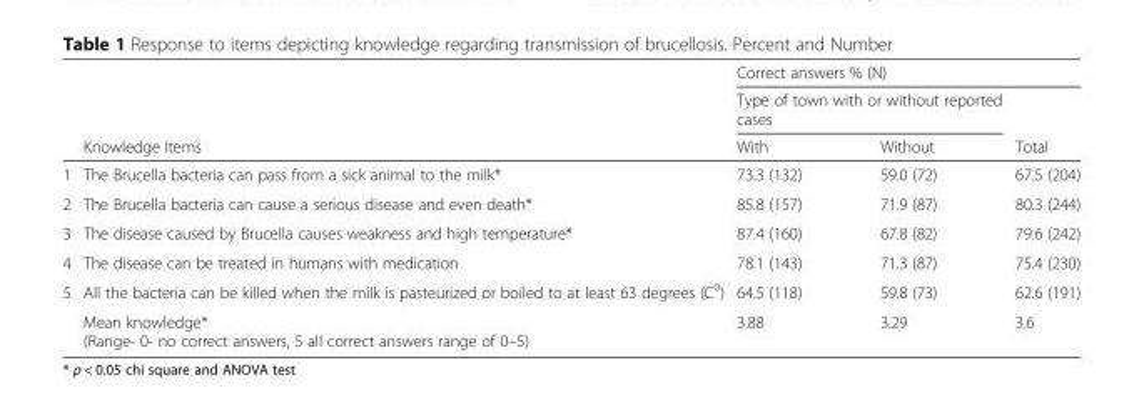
<table><thead><tr><td rowspan="3"></td><td rowspan="3">Knowledge Items</td><td colspan="3">Correct answers % (N)</td></tr><tr><td colspan="2">Type of town with or without reported cases</td><td rowspan="2">Total</td></tr><tr><td>With</td><td>Without</td></tr></thead><tbody><tr><td>1</td><td>The Brucella bacteria can pass from a sick animal to the milk*</td><td>73.3 (132)</td><td>59.0 (72)</td><td>67.5 (204)</td></tr><tr><td>2</td><td>The Brucella bacteria can cause a serious disease and even death*</td><td>85.8 (157)</td><td>71.9 (87)</td><td>80.3 (244)</td></tr><tr><td>3</td><td>The disease caused by Brucella causes weakness and high temperature*</td><td>87.4 (160)</td><td>67.8 (82)</td><td>79.6 (242)</td></tr><tr><td>4</td><td>The disease can be treated in humans with medication</td><td>78.1 (143)</td><td>71.3 (87)</td><td>75.4 (230)</td></tr><tr><td rowspan="2">5</td><td>All the bacteria can be killed when the milk is pasteurized or boiled to at least 63 degrees (C<sup>0</sup>)</td><td>64.5 (118)</td><td>59.8 (73)</td><td>62.6 (191)</td></tr><tr><td>Mean knowledge* (Range- 0- no correct answers, 5 all correct answers range of 0–5)</td><td>3.88</td><td>3.29</td><td>3.6</td></tr></tbody></table>